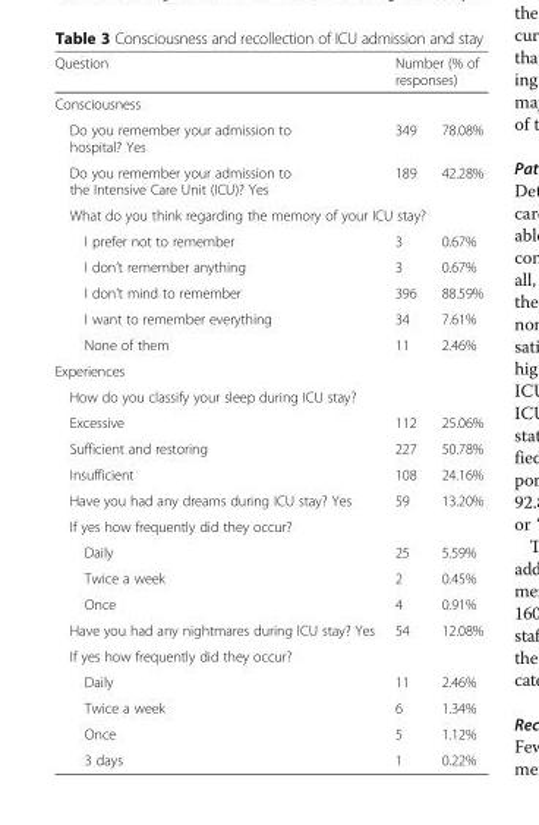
<table><thead><tr><td>Question</td><td colspan="2">Number (% of responses)</td></tr><tr><td colspan="3">Consciousness</td></tr><tr><td>Do you remember your admission to hospital? Yes</td><td>349</td><td>78.08%</td></tr></thead><tbody><tr><td>Do you remember your admission to the Intensive Care Unit (ICU)? Yes</td><td>189</td><td>42.28%</td></tr><tr><td colspan="3">What do you think regarding the memory of your ICU stay?</td></tr><tr><td>I prefer not to remember</td><td>3</td><td>0.67%</td></tr><tr><td>I don’t remember anything</td><td>3</td><td>0.67%</td></tr><tr><td>I don’t mind to remember</td><td>396</td><td>88.59%</td></tr><tr><td>I want to remember everything</td><td>34</td><td>7.61%</td></tr><tr><td>None of them</td><td>11</td><td>2.46%</td></tr><tr><td colspan="3">Experiences</td></tr><tr><td colspan="3">How do you classify your sleep during ICU stay?</td></tr><tr><td>Excessive</td><td>112</td><td>25.06%</td></tr><tr><td>Sufficient and restoring</td><td>227</td><td>50.78%</td></tr><tr><td>Insufficient</td><td>108</td><td>24.16%</td></tr><tr><td>Have you had any dreams during ICU stay? Yes</td><td>59</td><td>13.20%</td></tr><tr><td colspan="3">If yes how frequently did they occur?</td></tr><tr><td>Daily</td><td>25</td><td>5.59%</td></tr><tr><td>Twice a week</td><td>2</td><td>0.45%</td></tr><tr><td>Once</td><td>4</td><td>0.91%</td></tr><tr><td>Have you had any nightmares during ICU stay? Yes</td><td>54</td><td>12.08%</td></tr><tr><td colspan="3">If yes how frequently did they occur?</td></tr><tr><td>Daily</td><td>11</td><td>2.46%</td></tr><tr><td>Twice a week</td><td>6</td><td>1.34%</td></tr><tr><td>Once</td><td>5</td><td>1.12%</td></tr><tr><td>3 days</td><td>1</td><td>0.22%</td></tr></tbody></table>